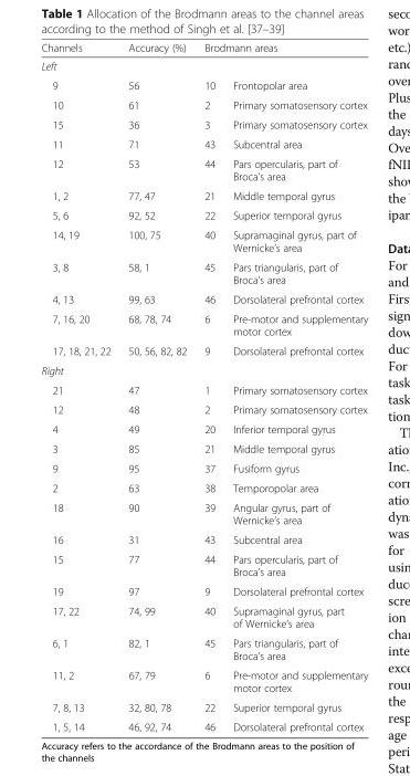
<table><thead><tr><td>Channels</td><td>Accuracy (%)</td><td colspan="2">Brodmann areas</td></tr><tr><td colspan="4">Left</td></tr><tr><td>9</td><td>56</td><td>10</td><td>Frontopolar area</td></tr></thead><tbody><tr><td>10</td><td>61</td><td>2</td><td>Primary somatosensory cortex</td></tr><tr><td>15</td><td>36</td><td>3</td><td>Primary somatosensory cortex</td></tr><tr><td>11</td><td>71</td><td>43</td><td>Subcentral area</td></tr><tr><td>12</td><td>53</td><td>44</td><td>Pars opercularis, part of Broca’s area</td></tr><tr><td>1, 2</td><td>77, 47</td><td>21</td><td>Middle temporal gyrus</td></tr><tr><td>5, 6</td><td>92, 52</td><td>22</td><td>Superior temporal gyrus</td></tr><tr><td>14, 19</td><td>100, 75</td><td>40</td><td>Supramaginal gyrus, part of Wernicke’s area</td></tr><tr><td>3, 8</td><td>58, 1</td><td>45</td><td>Pars triangularis, part of Broca’s area</td></tr><tr><td>4, 13</td><td>99, 63</td><td>46</td><td>Dorsolateral prefrontal cortex</td></tr><tr><td>7, 16, 20</td><td>68, 78, 74</td><td>6</td><td>Pre-motor and supplementary motor cortex</td></tr><tr><td>17, 18, 21, 22</td><td>50, 56, 82, 82</td><td>9</td><td>Dorsolateral prefrontal cortex</td></tr><tr><td colspan="4">Right</td></tr><tr><td>21</td><td>47</td><td>1</td><td>Primary somatosensory cortex</td></tr><tr><td>12</td><td>48</td><td>2</td><td>Primary somatosensory cortex</td></tr><tr><td>4</td><td>49</td><td>20</td><td>Inferior temporal gyrus</td></tr><tr><td>3</td><td>85</td><td>21</td><td>Middle temporal gyrus</td></tr><tr><td>9</td><td>95</td><td>37</td><td>Fusiform gyrus</td></tr><tr><td>2</td><td>63</td><td>38</td><td>Temporopolar area</td></tr><tr><td>18</td><td>90</td><td>39</td><td>Angular gyrus, part of Wernicke’s area</td></tr><tr><td>16</td><td>31</td><td>43</td><td>Subcentral area</td></tr><tr><td>15</td><td>77</td><td>44</td><td>Pars opercularis, part of Broca’s area</td></tr><tr><td>19</td><td>97</td><td>9</td><td>Dorsolateral prefrontal cortex</td></tr><tr><td>17, 22</td><td>74, 99</td><td>40</td><td>Supramaginal gyrus, part of Wernicke’s area</td></tr><tr><td>6, 1</td><td>82, 1</td><td>45</td><td>Pars triangularis, part of Broca’s area</td></tr><tr><td>11, 2</td><td>67, 79</td><td>6</td><td>Pre-motor and supplementary motor cortex</td></tr><tr><td>7, 8, 13</td><td>32, 80, 78</td><td>22</td><td>Superior temporal gyrus</td></tr><tr><td>1, 5, 14</td><td>46, 92, 74</td><td>46</td><td>Dorsolateral prefrontal cortex</td></tr></tbody></table>